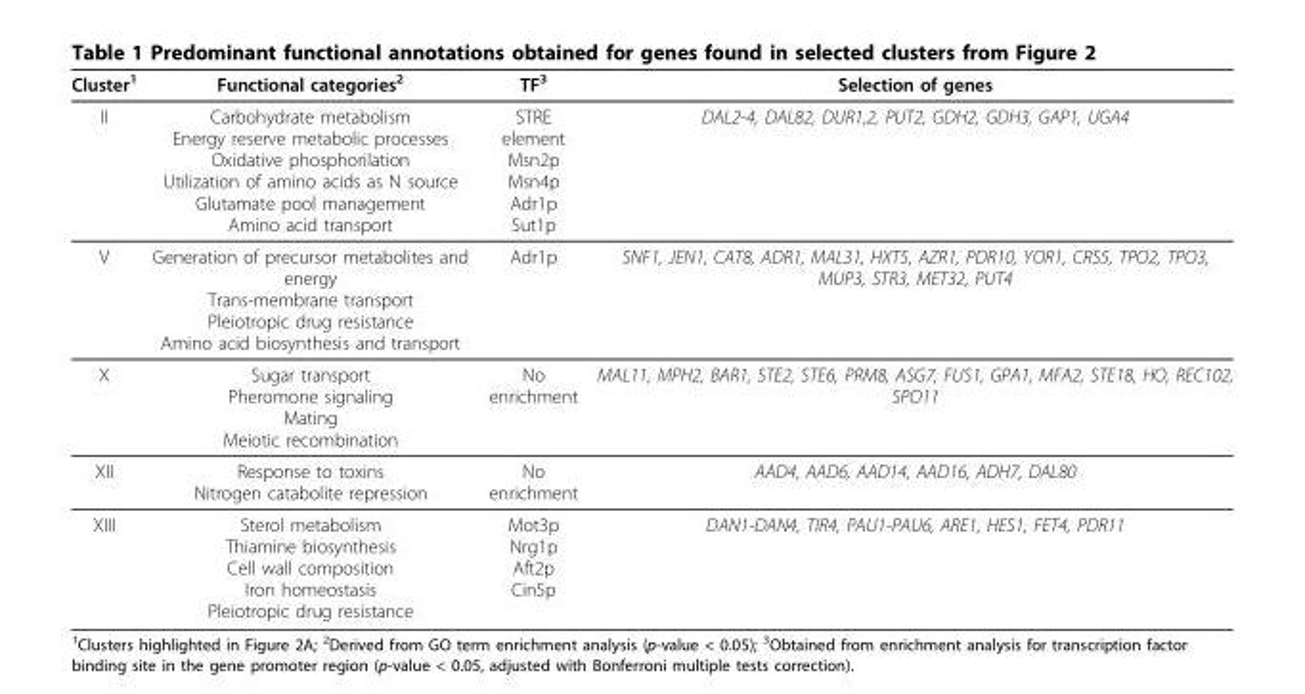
<table><thead><tr><td>Cluster<sup>1</sup></td><td>Functional categories<sup>2</sup></td><td>TF<sup>3</sup></td><td>Selection of genes</td></tr></thead><tbody><tr><td>II</td><td>Carbohydrate metabolism Energy reserve metabolic processes Oxidative phosphorilation Utilization of amino acids as N source Glutamate pool management Amino acid transport</td><td>STRE element Msn2p Msn4p Adr1p Sut1p</td><td>DAL2-4, DAL82, DUR1,2, PUT2, GDH2, GDH3, GAP1, UGA4</td></tr><tr><td>V</td><td>Generation of precursor metabolites and energy Trans-membrane transport Pleiotropic drug resistance Amino acid biosynthesis and transport</td><td>Adr1p</td><td>SNF1, JEN1, CAT8, ADR1, MAL31, HXT5, AZR1, PDR10, YOR1, CRS5, TPO2, TPO3, MUP3, STR3, MET32, PUT4</td></tr><tr><td>X</td><td>Sugar transport Pheromone signaling Mating Meiotic recombination</td><td>No enrichment</td><td>MAL11, MPH2, BAR1, STE2, STE6, PRM8, ASG7, FUS1, GPA1, MFA2, STE18, HO, REC102, SPO11</td></tr><tr><td>XII</td><td>Response to toxins Nitrogen catabolite repression</td><td>No enrichment</td><td>AAD4, AAD6, AAD14, AAD16, ADH7, DAL80</td></tr><tr><td>XIII</td><td>Sterol metabolism Thiamine biosynthesis Cell wall composition Iron homeostasis Pleiotropic drug resistance</td><td>Mot3p Nrg1p Aft2p Cin5p</td><td>DAN1-DAN4, TIR4, PAU1-PAU6, ARE1, HES1, FET4, PDR11</td></tr></tbody></table>